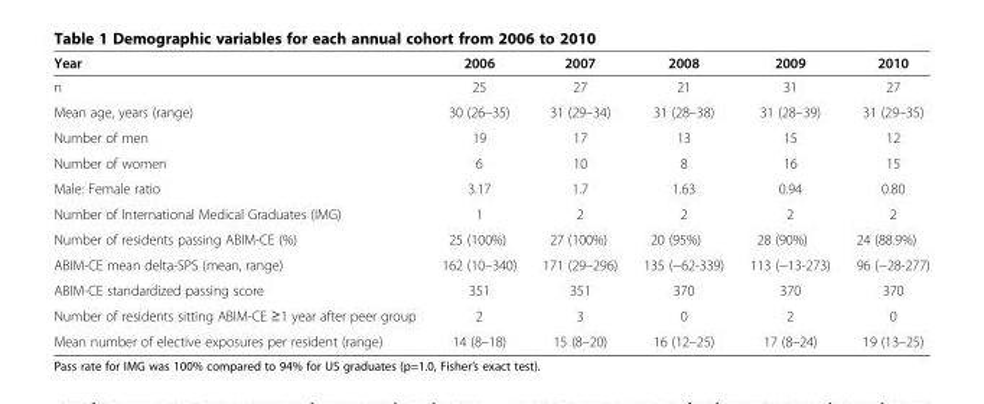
<table><thead><tr><td>Year</td><td>2006</td><td>2007</td><td>2008</td><td>2009</td><td>2010</td></tr></thead><tbody><tr><td>n</td><td>25</td><td>27</td><td>21</td><td>31</td><td>27</td></tr><tr><td>Mean age, years (range)</td><td>30 (26–35)</td><td>31 (29–34)</td><td>31 (28–38)</td><td>31 (28–39)</td><td>31 (29–35)</td></tr><tr><td>Number of men</td><td>19</td><td>17</td><td>13</td><td>15</td><td>12</td></tr><tr><td>Number of women</td><td>6</td><td>10</td><td>8</td><td>16</td><td>15</td></tr><tr><td>Male: Female ratio</td><td>3.17</td><td>1.7</td><td>1.63</td><td>0.94</td><td>0.80</td></tr><tr><td>Number of International Medical Graduates (IMG)</td><td>1</td><td>2</td><td>2</td><td>2</td><td>2</td></tr><tr><td>Number of residents passing ABIM-CE (%)</td><td>25 (100%)</td><td>27 (100%)</td><td>20 (95%)</td><td>28 (90%)</td><td>24 (88.9%)</td></tr><tr><td>ABIM-CE mean delta-SPS (mean, range)</td><td>162 (10–340)</td><td>171 (29–296)</td><td>135 (−62-339)</td><td>113 (−13-273)</td><td>96 (−28-277)</td></tr><tr><td>ABIM-CE standardized passing score</td><td>351</td><td>351</td><td>370</td><td>370</td><td>370</td></tr><tr><td>Number of residents sitting ABIM-CE ≥1 year after peer group</td><td>2</td><td>3</td><td>0</td><td>2</td><td>0</td></tr><tr><td>Mean number of elective exposures per resident (range)</td><td>14 (8–18)</td><td>15 (8–20)</td><td>16 (12–25)</td><td>17 (8–24)</td><td>19 (13–25)</td></tr></tbody></table>